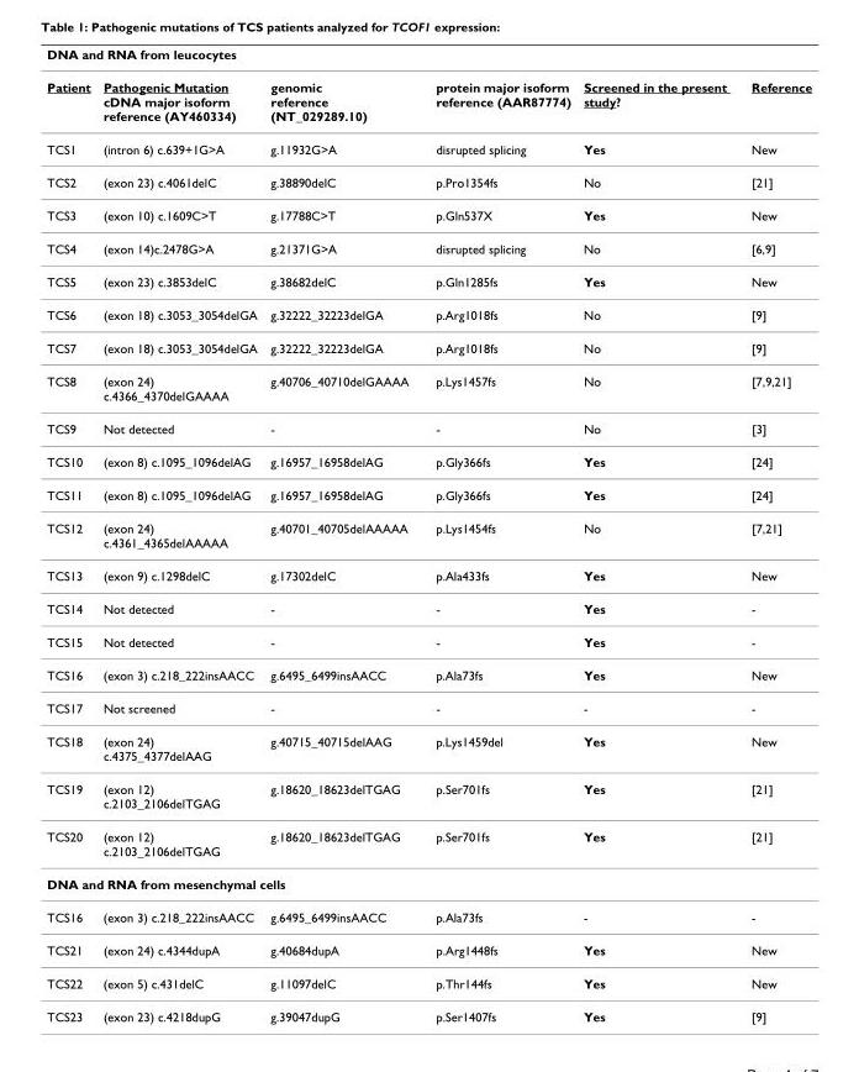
<table><thead><tr><td colspan="6">DNA and RNA from leucocytes</td></tr><tr><td>Patient</td><td>Pathogenic Mutation cDNA major isoform reference (AY460334)</td><td>genomic reference (NT_029289.10)</td><td>protein major isoform reference (AAR87774)</td><td>Screened in the present study?</td><td>Reference</td></tr></thead><tbody><tr><td>TCS1</td><td>(intron 6) c.639+1G&gt;A</td><td>g.11932G&gt;A</td><td>disrupted splicing</td><td>Yes</td><td>New</td></tr><tr><td>TCS2</td><td>(exon 23) c.4061delC</td><td>g.38890delC</td><td>p.Pro1354fs</td><td>No</td><td>[21]</td></tr><tr><td>TCS3</td><td>(exon 10) c.1609C&gt;T</td><td>g.17788C&gt;T</td><td>p.Gln537X</td><td>Yes</td><td>New</td></tr><tr><td>TCS4</td><td>(exon 14)c.2478G&gt;A</td><td>g.21371G&gt;A</td><td>disrupted splicing</td><td>No</td><td>[6,9]</td></tr><tr><td>TCS5</td><td>(exon 23) c.3853delC</td><td>g.38682delC</td><td>p.Gln1285fs</td><td>Yes</td><td>New</td></tr><tr><td>TCS6</td><td>(exon 18) c.3053_3054delGA</td><td>g.32222_32223delGA</td><td>p.Arg1018fs</td><td>No</td><td>[9]</td></tr><tr><td>TCS7</td><td>(exon 18) c.3053_3054delGA</td><td>g.32222_32223delGA</td><td>p.Arg1018fs</td><td>No</td><td>[9]</td></tr><tr><td>TCS8</td><td>(exon 24) c.4366_4370delGAAAA</td><td>g.40706_40710delGAAAA</td><td>p.Lys1457fs</td><td>No</td><td>[7,9,21]</td></tr><tr><td>TCS9</td><td>Not detected</td><td>-</td><td>-</td><td>No</td><td>[3]</td></tr><tr><td>TCS10</td><td>(exon 8) c.1095_1096delAG</td><td>g.16957_16958delAG</td><td>p.Gly366fs</td><td>Yes</td><td>[24]</td></tr><tr><td>TCS11</td><td>(exon 8) c.1095_1096delAG</td><td>g.16957_16958delAG</td><td>p.Gly366fs</td><td>Yes</td><td>[24]</td></tr><tr><td>TCS12</td><td>(exon 24) c.4361_4365delAAAAA</td><td>g.40701_40705delAAAAA</td><td>p.Lys1454fs</td><td>No</td><td>[7,21]</td></tr><tr><td>TCS13</td><td>(exon 9) c.1298delC</td><td>g.17302delC</td><td>p.Ala433fs</td><td>Yes</td><td>New</td></tr><tr><td>TCS14</td><td>Not detected</td><td>-</td><td>-</td><td>Yes</td><td>-</td></tr><tr><td>TCS15</td><td>Not detected</td><td>-</td><td>-</td><td>Yes</td><td>-</td></tr><tr><td>TCS16</td><td>(exon 3) c.218_222insAACC</td><td>g.6495_6499insAACC</td><td>p.Ala73fs</td><td>Yes</td><td>New</td></tr><tr><td>TCS17</td><td>Not screened</td><td>-</td><td>-</td><td>-</td><td>-</td></tr><tr><td>TCS18</td><td>(exon 24) c.4375_4377delAAG</td><td>g.40715_40715delAAG</td><td>p.Lys1459del</td><td>Yes</td><td>New</td></tr><tr><td>TCS19</td><td>(exon 12) c.2103_2106delTGAG</td><td>g.18620_18623delTGAG</td><td>p.Ser701fs</td><td>Yes</td><td>[21]</td></tr><tr><td>TCS20</td><td>(exon 12) c.2103_2106delTGAG</td><td>g.18620_18623delTGAG</td><td>p.Ser701fs</td><td>Yes</td><td>[21]</td></tr><tr><td colspan="6">DNA and RNA from mesenchymal cells</td></tr><tr><td>TCS16</td><td>(exon 3) c.218_222insAACC</td><td>g.6495_6499insAACC</td><td>p.Ala73fs</td><td>-</td><td>-</td></tr><tr><td>TCS21</td><td>(exon 24) c.4344dupA</td><td>g.40684dupA</td><td>p.Arg1448fs</td><td>Yes</td><td>New</td></tr><tr><td>TCS22</td><td>(exon 5) c.431delC</td><td>g.11097delC</td><td>p.Thr144fs</td><td>Yes</td><td>New</td></tr><tr><td>TCS23</td><td>(exon 23) c.4218dupG</td><td>g.39047dupG</td><td>p.Ser1407fs</td><td>Yes</td><td>[9]</td></tr></tbody></table>